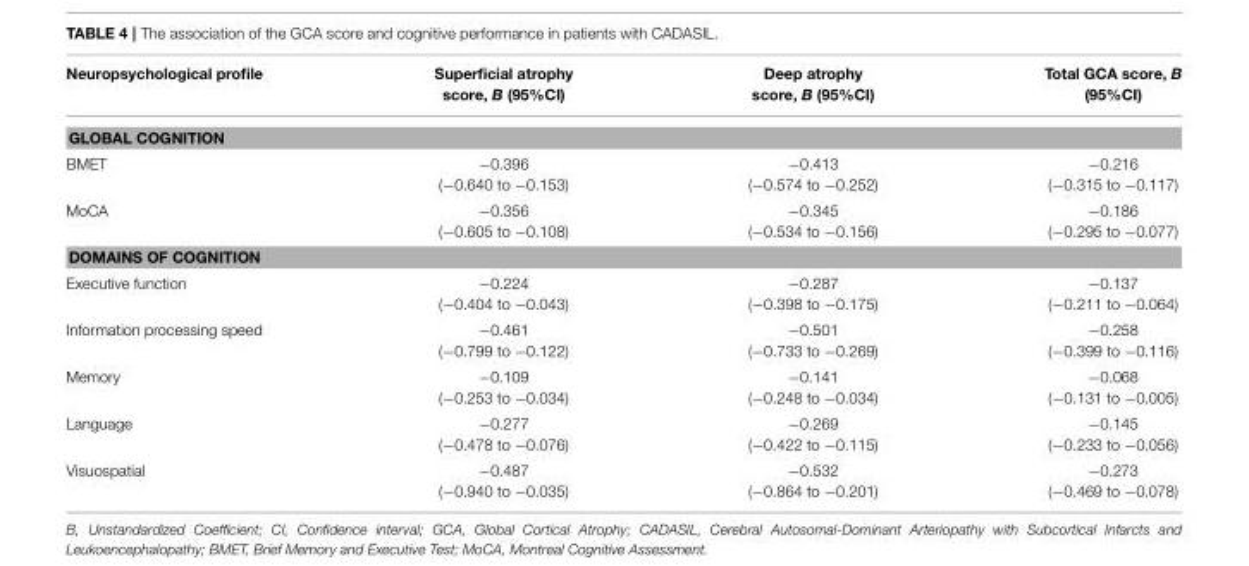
<table><thead><tr><td>Neuropsychological profile</td><td>Superficial atrophy score, B (95%CI)</td><td>Deep atrophy score, B (95%CI)</td><td>Total GCA score, B (95%CI)</td></tr></thead><tbody><tr><td colspan="4">GLOBAL COGNITION</td></tr><tr><td>BMET</td><td>−0.396 (−0.640 to −0.153)</td><td>−0.413 (−0.574 to −0.252)</td><td>−0.216 (−0.315 to −0.117)</td></tr><tr><td>MoCA</td><td>−0.356 (−0.605 to −0.108)</td><td>−0.345 (−0.534 to −0.156)</td><td>−0.186 (−0.295 to −0.077)</td></tr><tr><td colspan="4">DOMAINS OF COGNITION</td></tr><tr><td>Executive function</td><td>−0.224 (−0.404 to −0.043)</td><td>−0.287 (−0.398 to −0.175)</td><td>−0.137 (−0.211 to −0.064)</td></tr><tr><td>Information processing speed</td><td>−0.461 (−0.799 to −0.122)</td><td>−0.501 (−0.733 to −0.269)</td><td>−0.258 (−0.399 to −0.116)</td></tr><tr><td>Memory</td><td>−0.109 (−0.253 to −0.034)</td><td>−0.141 (−0.248 to −0.034)</td><td>−0.068 (−0.131 to −0.005)</td></tr><tr><td>Language</td><td>−0.277 (−0.478 to −0.076)</td><td>−0.269 (−0.422 to −0.115)</td><td>−0.145 (−0.233 to −0.056)</td></tr><tr><td>Visuospatial</td><td>−0.487 (−0.940 to −0.035)</td><td>−0.532 (−0.864 to −0.201)</td><td>−0.273 (−0.469 to −0.078)</td></tr></tbody></table>